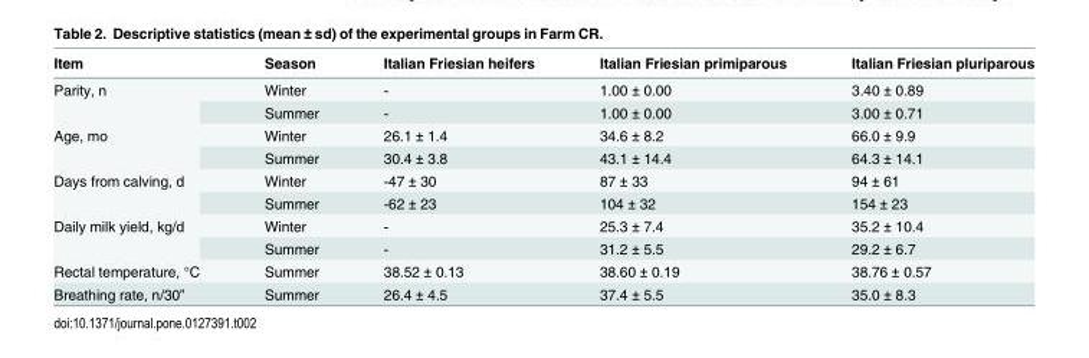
<table><thead><tr><td>Item</td><td>Season</td><td>Italian Friesian heifers</td><td>Italian Friesian primiparous</td><td>Italian Friesian pluriparous</td></tr></thead><tbody><tr><td rowspan="2">Parity, n</td><td>Winter</td><td>-</td><td>1.00 ± 0.00</td><td>3.40 ± 0.89</td></tr><tr><td>Summer</td><td>-</td><td>1.00 ± 0.00</td><td>3.00 ± 0.71</td></tr><tr><td rowspan="2">Age, mo</td><td>Winter</td><td>26.1 ± 1.4</td><td>34.6 ± 8.2</td><td>66.0 ± 9.9</td></tr><tr><td>Summer</td><td>30.4 ± 3.8</td><td>43.1 ± 14.4</td><td>64.3 ± 14.1</td></tr><tr><td rowspan="2">Days from calving, d</td><td>Winter</td><td>-47 ± 30</td><td>87 ± 33</td><td>94 ± 61</td></tr><tr><td>Summer</td><td>-62 ± 23</td><td>104 ± 32</td><td>154 ± 23</td></tr><tr><td rowspan="2">Daily milk yield, kg/d</td><td>Winter</td><td>-</td><td>25.3 ± 7.4</td><td>35.2 ± 10.4</td></tr><tr><td>Summer</td><td>-</td><td>31.2 ± 5.5</td><td>29.2 ± 6.7</td></tr><tr><td>Rectal temperature, °C</td><td>Summer</td><td>38.52 ± 0.13</td><td>38.60 ± 0.19</td><td>38.76 ± 0.57</td></tr><tr><td>Breathing rate, n/30”</td><td>Summer</td><td>26.4 ± 4.5</td><td>37.4 ± 5.5</td><td>35.0 ± 8.3</td></tr></tbody></table>